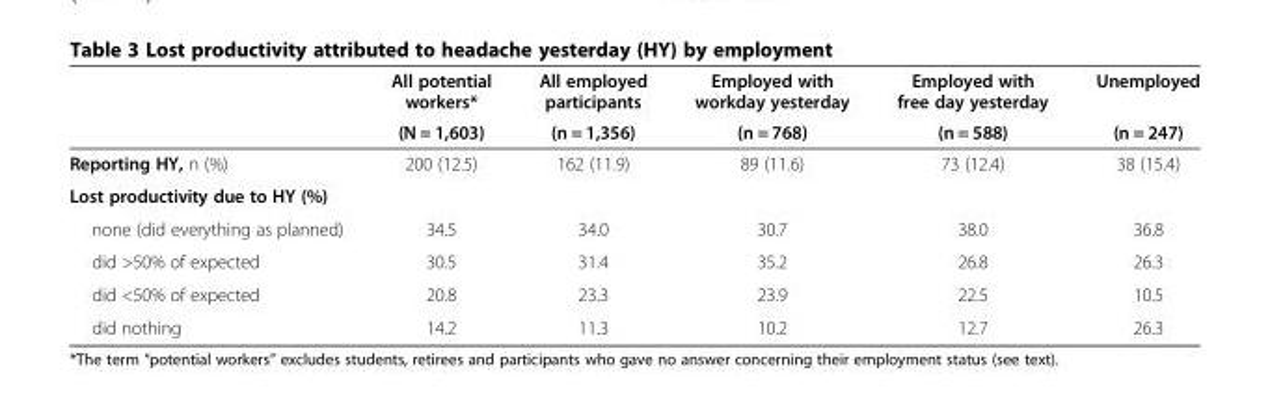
<table><thead><tr><td rowspan="2"></td><td rowspan="2">All potential workers* (N = 1,603)</td><td rowspan="2">All employed participants (n = 1,356)</td><td rowspan="2">Employed with workday yesterday (n = 768)</td><td rowspan="2">Employed with free day yesterday (n = 588)</td><td rowspan="2">Unemployed (n = 247)</td></tr><tr></tr></thead><tbody><tr><td>Reporting HY, n (%)</td><td>200 (12.5)</td><td>162 (11.9)</td><td>89 (11.6)</td><td>73 (12.4)</td><td>38 (15.4)</td></tr><tr><td colspan="6">Lost productivity due to HY (%)</td></tr><tr><td>none (did everything as planned)</td><td>34.5</td><td>34.0</td><td>30.7</td><td>38.0</td><td>36.8</td></tr><tr><td>did &gt;50% of expected</td><td>30.5</td><td>31.4</td><td>35.2</td><td>26.8</td><td>26.3</td></tr><tr><td>did &lt;50% of expected</td><td>20.8</td><td>23.3</td><td>23.9</td><td>22.5</td><td>10.5</td></tr><tr><td>did nothing</td><td>14.2</td><td>11.3</td><td>10.2</td><td>12.7</td><td>26.3</td></tr></tbody></table>